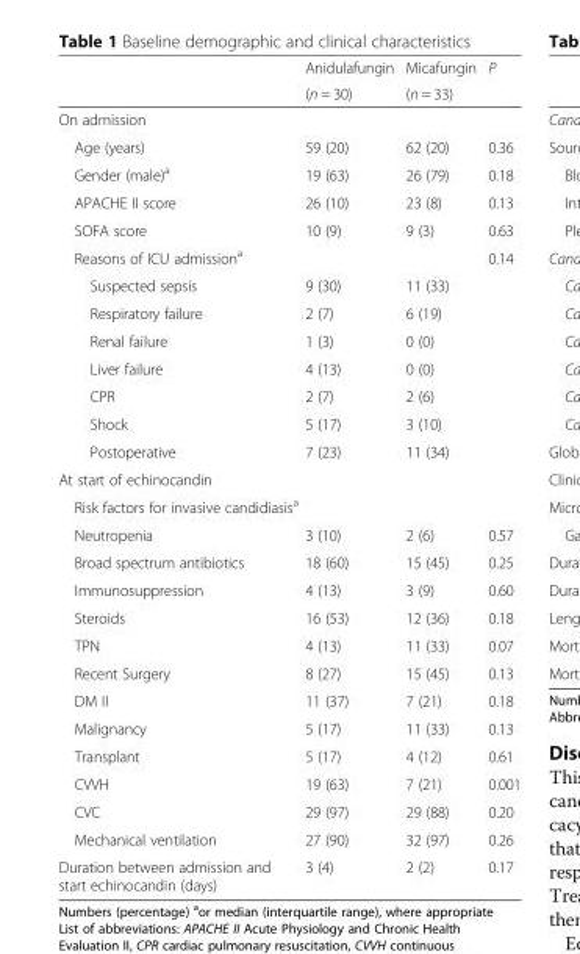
<table><thead><tr><td rowspan="2"></td><td rowspan="2">Anidulafungin (n = 30)</td><td rowspan="2">Micafungin (n = 33)</td><td rowspan="2">P</td></tr><tr></tr></thead><tbody><tr><td colspan="4">On admission</td></tr><tr><td>Age (years)</td><td>59 (20)</td><td>62 (20)</td><td>0.36</td></tr><tr><td>Gender (male)<sup>a</sup></td><td>19 (63)</td><td>26 (79)</td><td>0.18</td></tr><tr><td>APACHE II score</td><td>26 (10)</td><td>23 (8)</td><td>0.13</td></tr><tr><td>SOFA score</td><td>10 (9)</td><td>9 (3)</td><td>0.63</td></tr><tr><td>Reasons of ICU admission<sup>a</sup></td><td></td><td></td><td>0.14</td></tr><tr><td>Suspected sepsis</td><td>9 (30)</td><td>11 (33)</td><td></td></tr><tr><td>Respiratory failure</td><td>2 (7)</td><td>6 (19)</td><td></td></tr><tr><td>Renal failure</td><td>1 (3)</td><td>0 (0)</td><td></td></tr><tr><td>Liver failure</td><td>4 (13)</td><td>0 (0)</td><td></td></tr><tr><td>CPR</td><td>2 (7)</td><td>2 (6)</td><td></td></tr><tr><td>Shock</td><td>5 (17)</td><td>3 (10)</td><td></td></tr><tr><td>Postoperative</td><td>7 (23)</td><td>11 (34)</td><td></td></tr><tr><td colspan="4">At start of echinocandin</td></tr><tr><td colspan="4">Risk factors for invasive candidiasis<sup>a</sup></td></tr><tr><td>Neutropenia</td><td>3 (10)</td><td>2 (6)</td><td>0.57</td></tr><tr><td>Broad spectrum antibiotics</td><td>18 (60)</td><td>15 (45)</td><td>0.25</td></tr><tr><td>Immunosuppression</td><td>4 (13)</td><td>3 (9)</td><td>0.60</td></tr><tr><td>Steroids</td><td>16 (53)</td><td>12 (36)</td><td>0.18</td></tr><tr><td>TPN</td><td>4 (13)</td><td>11 (33)</td><td>0.07</td></tr><tr><td>Recent Surgery</td><td>8 (27)</td><td>15 (45)</td><td>0.13</td></tr><tr><td>DM II</td><td>11 (37)</td><td>7 (21)</td><td>0.18</td></tr><tr><td>Malignancy</td><td>5 (17)</td><td>11 (33)</td><td>0.13</td></tr><tr><td>Transplant</td><td>5 (17)</td><td>4 (12)</td><td>0.61</td></tr><tr><td>CVVH</td><td>19 (63)</td><td>7 (21)</td><td>0.001</td></tr><tr><td>CVC</td><td>29 (97)</td><td>29 (88)</td><td>0.20</td></tr><tr><td>Mechanical ventilation</td><td>27 (90)</td><td>32 (97)</td><td>0.26</td></tr><tr><td>Duration between admission and start echinocandin (days)</td><td>3 (4)</td><td>2 (2)</td><td>0.17</td></tr></tbody></table>